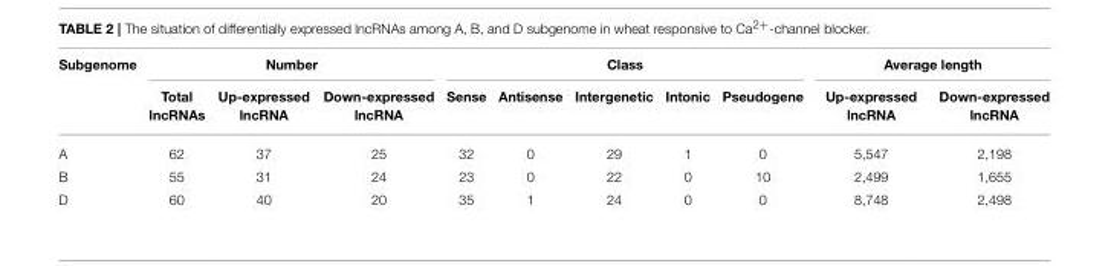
<table><thead><tr><td rowspan="2">Subgenome</td><td colspan="3">Number</td><td colspan="5">Class</td><td colspan="2">Average length</td></tr><tr><td>Total lncRNAs</td><td>Up-expressed lncRNA</td><td>Down-expressed lncRNA</td><td>Sense</td><td>Antisense</td><td>Intergenetic</td><td>Intonic</td><td>Pseudogene</td><td>Up-expressed lncRNA</td><td>Down-expressed lncRNA</td></tr></thead><tbody><tr><td>A</td><td>62</td><td>37</td><td>25</td><td>32</td><td>0</td><td>29</td><td>1</td><td>0</td><td>5,547</td><td>2,198</td></tr><tr><td>B</td><td>55</td><td>31</td><td>24</td><td>23</td><td>0</td><td>22</td><td>0</td><td>10</td><td>2,499</td><td>1,655</td></tr><tr><td>D</td><td>60</td><td>40</td><td>20</td><td>35</td><td>1</td><td>24</td><td>0</td><td>0</td><td>8,748</td><td>2,498</td></tr></tbody></table>